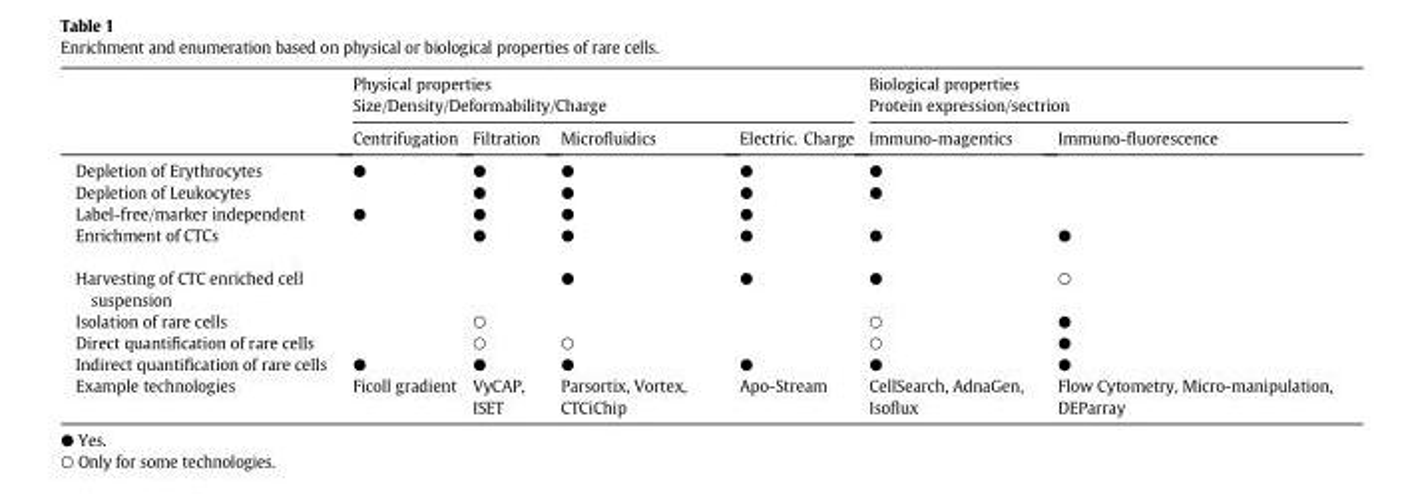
<table><thead><tr><td rowspan="3"></td><td rowspan="2" colspan="4">Physical properties Size/Density/Deformability/Charge</td><td rowspan="2" colspan="2">Biological properties Protein expression/sectrion</td></tr><tr></tr><tr><td>Centrifugation</td><td>Filtration</td><td>Microfluidics</td><td>Electric. Charge</td><td>Immuno-magentics</td><td>Immuno-fluorescence</td></tr></thead><tbody><tr><td>Depletion of Erythrocytes</td><td>●</td><td>●</td><td>●</td><td>●</td><td>●</td><td></td></tr><tr><td>Depletion of Leukocytes</td><td></td><td>●</td><td>●</td><td>●</td><td>●</td><td></td></tr><tr><td>Label-free/marker independent</td><td>●</td><td>●</td><td>●</td><td>●</td><td></td><td></td></tr><tr><td>Enrichment of CTCs</td><td></td><td>●</td><td>●</td><td>●</td><td>●</td><td>●</td></tr><tr><td>Harvesting of CTC enriched cell suspension</td><td></td><td></td><td>●</td><td>●</td><td>●</td><td>○</td></tr><tr><td>Isolation of rare cells</td><td></td><td>○</td><td></td><td></td><td>○</td><td>●</td></tr><tr><td>Direct quantification of rare cells</td><td></td><td>○</td><td>○</td><td></td><td>○</td><td>●</td></tr><tr><td>Indirect quantification of rare cells</td><td>●</td><td>●</td><td>●</td><td>●</td><td>●</td><td>●</td></tr><tr><td>Example technologies</td><td>Ficoll gradient</td><td>VyCAP, ISET</td><td>Parsortix, Vortex, CTCiChip</td><td>Apo-Stream</td><td>CellSearch, AdnaGen, Isoflux</td><td>Flow Cytometry, Micro-manipulation, DEParray</td></tr></tbody></table>